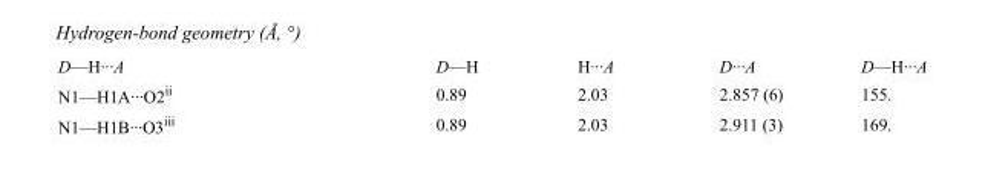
<table><tbody><tr><td>D—H···A</td><td>D—H</td><td>H···A</td><td>D···A</td><td>D—H···A</td></tr><tr><td>N1—H1A···O2<sup>ii</sup></td><td>0.89</td><td>2.03</td><td>2.857 (6)</td><td>155.</td></tr><tr><td>N1—H1B···O3<sup>iii</sup></td><td>0.89</td><td>2.03</td><td>2.911 (3)</td><td>169.</td></tr></tbody></table>